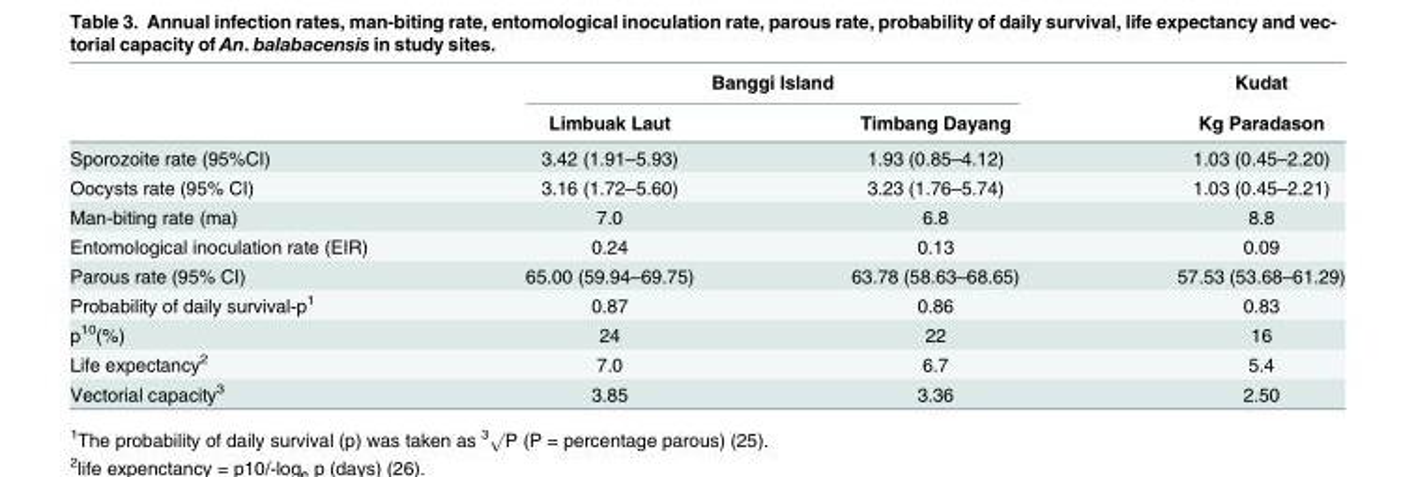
<table><thead><tr><td rowspan="2"></td><td colspan="2">Banggi Island</td><td rowspan="2">Kudat Kg Paradason</td></tr><tr><td>Limbuak Laut</td><td>Timbang Dayang</td></tr></thead><tbody><tr><td>Sporozoite rate (95%CI)</td><td>3.42 (1.91–5.93)</td><td>1.93 (0.85–4.12)</td><td>1.03 (0.45–2.20)</td></tr><tr><td>Oocysts rate (95% CI)</td><td>3.16 (1.72–5.60)</td><td>3.23 (1.76–5.74)</td><td>1.03 (0.45–2.21)</td></tr><tr><td>Man-biting rate (ma)</td><td>7.0</td><td>6.8</td><td>8.8</td></tr><tr><td>Entomological inoculation rate (EIR)</td><td>0.24</td><td>0.13</td><td>0.09</td></tr><tr><td>Parous rate (95% CI)</td><td>65.00 (59.94–69.75)</td><td>63.78 (58.63–68.65)</td><td>57.53 (53.68–61.29)</td></tr><tr><td>Probability of daily survival-p<sup>1</sup></td><td>0.87</td><td>0.86</td><td>0.83</td></tr><tr><td>p<sup>10</sup>(%)</td><td>24</td><td>22</td><td>16</td></tr><tr><td>Life expectancy<sup>2</sup></td><td>7.0</td><td>6.7</td><td>5.4</td></tr><tr><td>Vectorial capacity<sup>3</sup></td><td>3.85</td><td>3.36</td><td>2.50</td></tr></tbody></table>